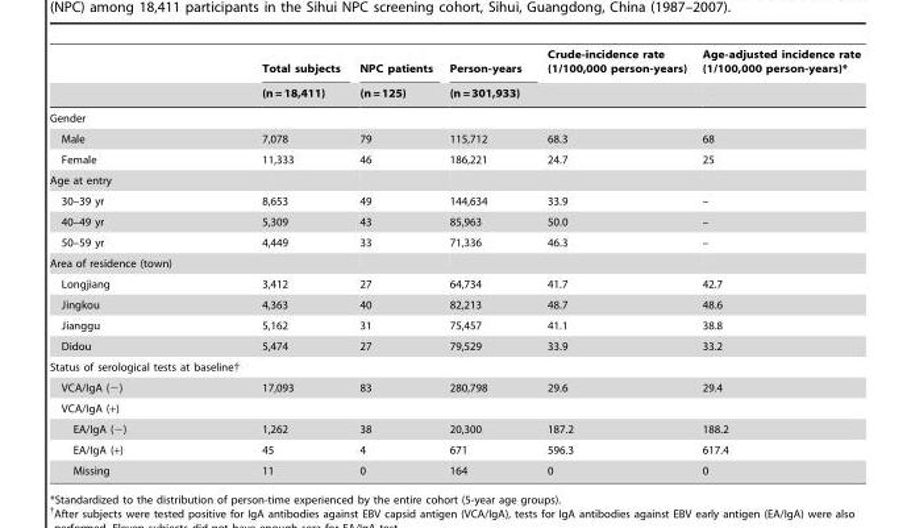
<table><thead><tr><td rowspan="2"></td><td rowspan="2">Total subjects (n = 18,411)</td><td rowspan="2">NPC patients (n = 125)</td><td rowspan="2">Person-years (n = 301,933)</td><td rowspan="2">Crude-incidence rate (1/100,000 person-years)</td><td rowspan="2">Age-adjusted incidence rate (1/100,000 person-years)*</td></tr><tr></tr></thead><tbody><tr><td colspan="6">Gender</td></tr><tr><td>Male</td><td>7,078</td><td>79</td><td>115,712</td><td>68.3</td><td>68</td></tr><tr><td>Female</td><td>11,333</td><td>46</td><td>186,221</td><td>24.7</td><td>25</td></tr><tr><td colspan="6">Age at entry</td></tr><tr><td>30–39 yr</td><td>8,653</td><td>49</td><td>144,634</td><td>33.9</td><td>–</td></tr><tr><td>40–49 yr</td><td>5,309</td><td>43</td><td>85,963</td><td>50.0</td><td>–</td></tr><tr><td>50–59 yr</td><td>4,449</td><td>33</td><td>71,336</td><td>46.3</td><td>–</td></tr><tr><td colspan="6">Area of residence (town)</td></tr><tr><td>Longjiang</td><td>3,412</td><td>27</td><td>64,734</td><td>41.7</td><td>42.7</td></tr><tr><td>Jingkou</td><td>4,363</td><td>40</td><td>82,213</td><td>48.7</td><td>48.6</td></tr><tr><td>Jianggu</td><td>5,162</td><td>31</td><td>75,457</td><td>41.1</td><td>38.8</td></tr><tr><td>Didou</td><td>5,474</td><td>27</td><td>79,529</td><td>33.9</td><td>33.2</td></tr><tr><td colspan="6">Status of serological tests at baseline†</td></tr><tr><td>VCA/IgA (−)</td><td>17,093</td><td>83</td><td>280,798</td><td>29.6</td><td>29.4</td></tr><tr><td colspan="6">VCA/IgA (+)</td></tr><tr><td>EA/IgA (−)</td><td>1,262</td><td>38</td><td>20,300</td><td>187.2</td><td>188.2</td></tr><tr><td>EA/IgA (+)</td><td>45</td><td>4</td><td>671</td><td>596.3</td><td>617.4</td></tr><tr><td>Missing</td><td>11</td><td>0</td><td>164</td><td>0</td><td>0</td></tr></tbody></table>